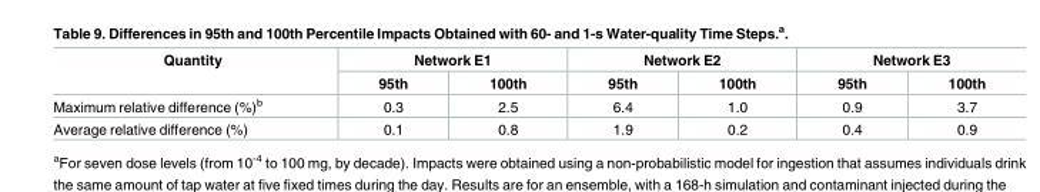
<table><thead><tr><td rowspan="2">Quantity</td><td colspan="2">Network E1</td><td colspan="2">Network E2</td><td colspan="2">Network E3</td></tr><tr><td>95th</td><td>100th</td><td>95th</td><td>100th</td><td>95th</td><td>100th</td></tr></thead><tbody><tr><td>Maximum relative difference (%)<sup>b</sup></td><td>0.3</td><td>2.5</td><td>6.4</td><td>1.0</td><td>0.9</td><td>3.7</td></tr><tr><td>Average relative difference (%)</td><td>0.1</td><td>0.8</td><td>1.9</td><td>0.2</td><td>0.4</td><td>0.9</td></tr></tbody></table>